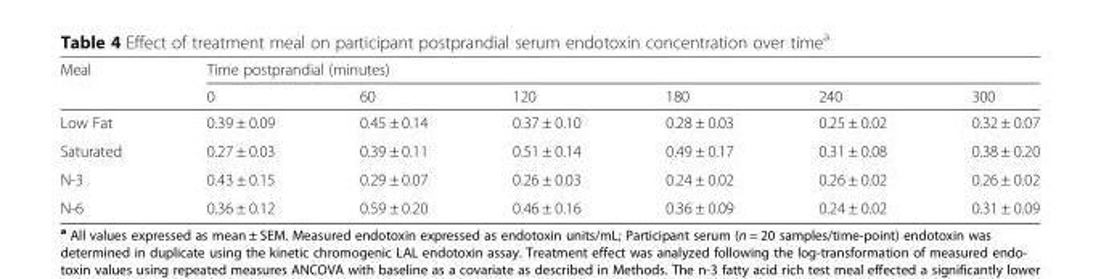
<table><thead><tr><td rowspan="2">Meal</td><td colspan="6">Time postprandial (minutes)</td></tr><tr><td>0</td><td>60</td><td>120</td><td>180</td><td>240</td><td>300</td></tr></thead><tbody><tr><td>Low Fat</td><td>0.39 ± 0.09</td><td>0.45 ± 0.14</td><td>0.37 ± 0.10</td><td>0.28 ± 0.03</td><td>0.25 ± 0.02</td><td>0.32 ± 0.07</td></tr><tr><td>Saturated</td><td>0.27 ± 0.03</td><td>0.39 ± 0.11</td><td>0.51 ± 0.14</td><td>0.49 ± 0.17</td><td>0.31 ± 0.08</td><td>0.38 ± 0.20</td></tr><tr><td>N-3</td><td>0.43 ± 0.15</td><td>0.29 ± 0.07</td><td>0.26 ± 0.03</td><td>0.24 ± 0.02</td><td>0.26 ± 0.02</td><td>0.26 ± 0.02</td></tr><tr><td>N-6</td><td>0.36 ± 0.12</td><td>0.59 ± 0.20</td><td>0.46 ± 0.16</td><td>0.36 ± 0.09</td><td>0.24 ± 0.02</td><td>0.31 ± 0.09</td></tr></tbody></table>